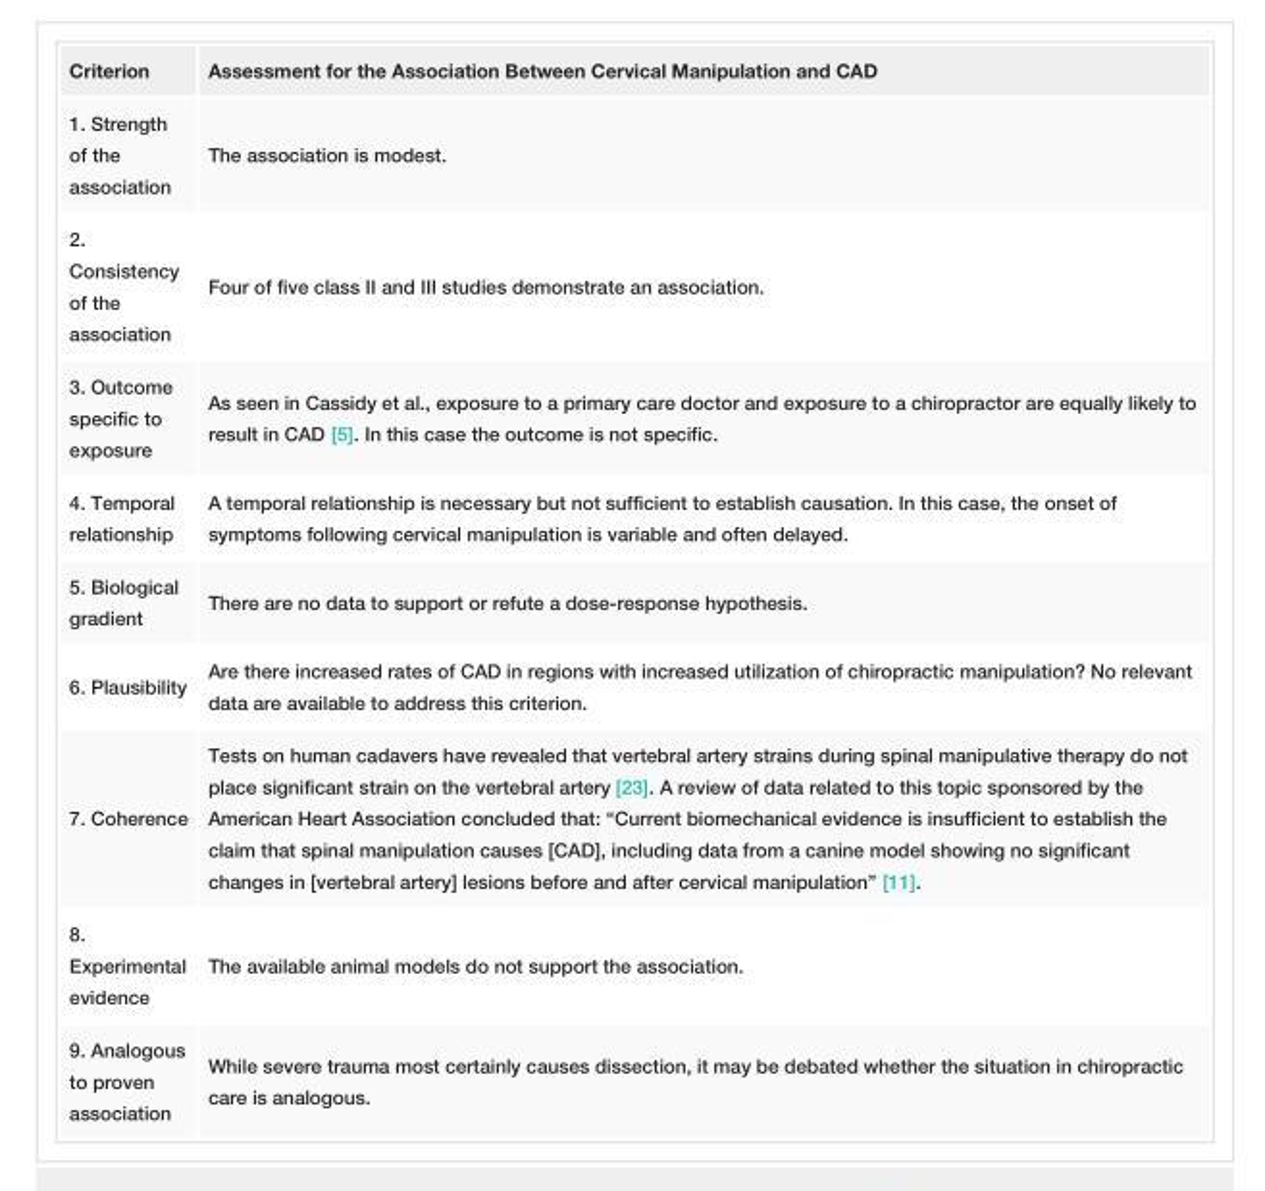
<table><tbody><tr><td>Criterion</td><td>Assessment for the Association Between Cervical Manipulation and CAD</td></tr><tr><td>1. Strength of the association</td><td>The association is modest.</td></tr><tr><td>2. Consistency of the association</td><td>Four of five class II and III studies demonstrate an association.</td></tr><tr><td>3. Outcome specific to exposure</td><td>As seen in Cassidy et al., exposure to a primary care doctor and exposure to a chiropractor are equally likely to result in CAD [5]. In this case the outcome is not specific.</td></tr><tr><td>4. Temporal relationship</td><td>A temporal relationship is necessary but not sufficient to establish causation. In this case, the onset of symptoms following cervical manipulation is variable and often delayed.</td></tr><tr><td>5. Biological gradient</td><td>There are no data to support or refute a dose-response hypothesis.</td></tr><tr><td>6. Plausibility</td><td>Are there increased rates of CAD in regions with increased utilization of chiropractic manipulation? No relevant data are available to address this criterion.</td></tr><tr><td>7. Coherence</td><td>Tests on human cadavers have revealed that vertebral artery strains during spinal manipulative therapy do not place significant strain on the vertebral artery [23]. A review of data related to this topic sponsored by the American Heart Association concluded that: “Current biomechanical evidence is insufficient to establish the claim that spinal manipulation causes [CAD], including data from a canine model showing no significant changes in [vertebral artery] lesions before and after cervical manipulation” [11].</td></tr><tr><td>8. Experimental evidence</td><td>The available animal models do not support the association.</td></tr><tr><td>9. Analogous to proven association</td><td>While severe trauma most certainly causes dissection, it may be debated whether the situation in chiropractic care is analogous.</td></tr></tbody></table>